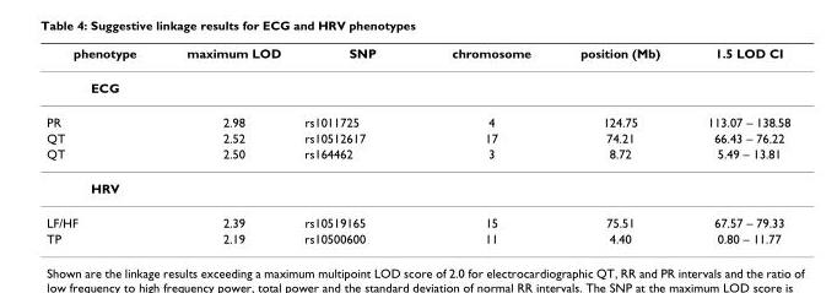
<table><thead><tr><td>phenotype</td><td>maximum LOD</td><td>SNP</td><td>chromosome</td><td>position (Mb)</td><td>1.5 LOD CI</td></tr></thead><tbody><tr><td colspan="6">ECG</td></tr><tr><td>PR</td><td>2.98</td><td>rs1011725</td><td>4</td><td>124.75</td><td>113.07 – 138.58</td></tr><tr><td>QT</td><td>2.52</td><td>rs10512617</td><td>17</td><td>74.21</td><td>66.43 – 76.22</td></tr><tr><td>QT</td><td>2.50</td><td>rs164462</td><td>3</td><td>8.72</td><td>5.49 – 13.81</td></tr><tr><td colspan="6">HRV</td></tr><tr><td>LF/HF</td><td>2.39</td><td>rs10519165</td><td>15</td><td>75.51</td><td>67.57 – 79.33</td></tr><tr><td>TP</td><td>2.19</td><td>rs10500600</td><td>11</td><td>4.40</td><td>0.80 – 11.77</td></tr></tbody></table>